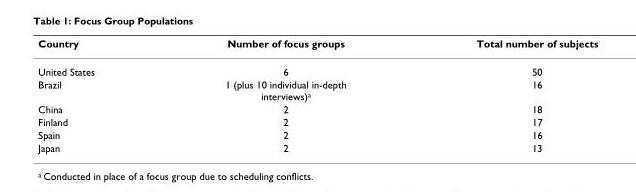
<table><thead><tr><td>Country</td><td>Number of focus groups</td><td>Total number of subjects</td></tr></thead><tbody><tr><td>United States</td><td>6</td><td>50</td></tr><tr><td>Brazil</td><td>1 (plus 10 individual in-depth interviews)<sup>a</sup></td><td>16</td></tr><tr><td>China</td><td>2</td><td>18</td></tr><tr><td>Finland</td><td>2</td><td>17</td></tr><tr><td>Spain</td><td>2</td><td>16</td></tr><tr><td>Japan</td><td>2</td><td>13</td></tr></tbody></table>